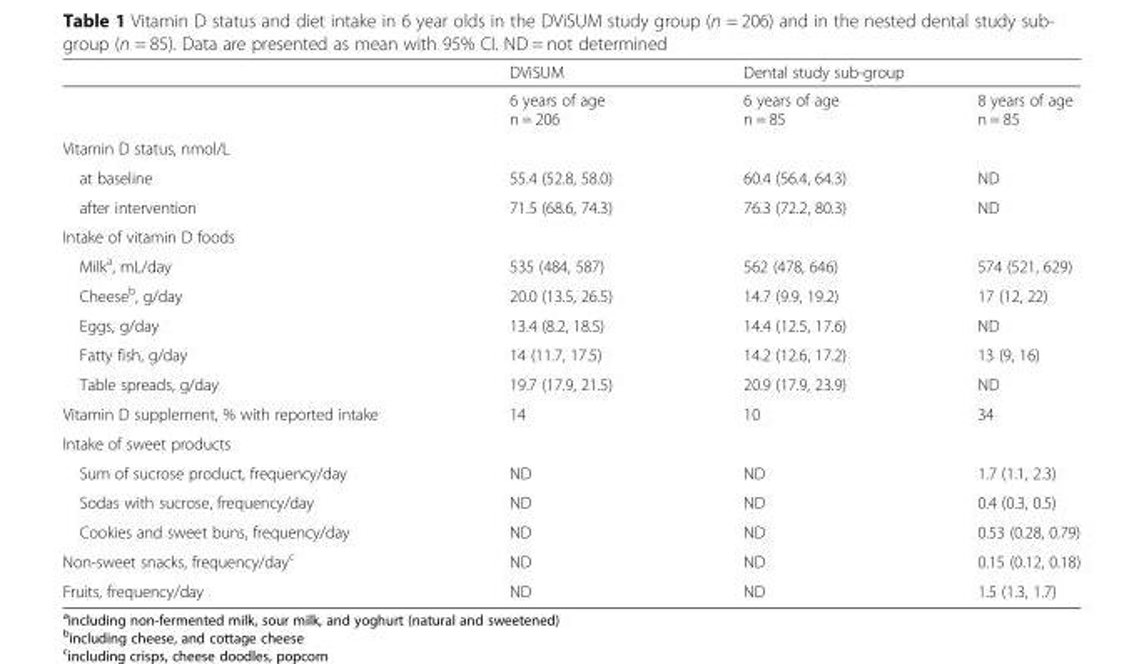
<table><thead><tr><td rowspan="2"></td><td rowspan="2">DViSUM 6 years of age n = 206</td><td colspan="2">Dental study sub-group</td></tr><tr><td>6 years of age n = 85</td><td>8 years of age n = 85</td></tr></thead><tbody><tr><td colspan="4">Vitamin D status, nmol/L</td></tr><tr><td>at baseline</td><td>55.4 (52.8, 58.0)</td><td>60.4 (56.4, 64.3)</td><td>ND</td></tr><tr><td>after intervention</td><td>71.5 (68.6, 74.3)</td><td>76.3 (72.2, 80.3)</td><td>ND</td></tr><tr><td colspan="4">Intake of vitamin D foods</td></tr><tr><td>Milk<sup>a</sup>, mL/day</td><td>535 (484, 587)</td><td>562 (478, 646)</td><td>574 (521, 629)</td></tr><tr><td>Cheese<sup>b</sup>, g/day</td><td>20.0 (13.5, 26.5)</td><td>14.7 (9.9, 19.2)</td><td>17 (12, 22)</td></tr><tr><td>Eggs, g/day</td><td>13.4 (8.2, 18.5)</td><td>14.4 (12.5, 17.6)</td><td>ND</td></tr><tr><td>Fatty fish, g/day</td><td>14 (11.7, 17.5)</td><td>14.2 (12.6, 17.2)</td><td>13 (9, 16)</td></tr><tr><td>Table spreads, g/day</td><td>19.7 (17.9, 21.5)</td><td>20.9 (17.9, 23.9)</td><td>ND</td></tr><tr><td>Vitamin D supplement, % with reported intake</td><td>14</td><td>10</td><td>34</td></tr><tr><td colspan="4">Intake of sweet products</td></tr><tr><td>Sum of sucrose product, frequency/day</td><td>ND</td><td>ND</td><td>1.7 (1.1, 2.3)</td></tr><tr><td>Sodas with sucrose, frequency/day</td><td>ND</td><td>ND</td><td>0.4 (0.3, 0.5)</td></tr><tr><td>Cookies and sweet buns, frequency/day</td><td>ND</td><td>ND</td><td>0.53 (0.28, 0.79)</td></tr><tr><td>Non-sweet snacks, frequency/day<sup>c</sup></td><td>ND</td><td>ND</td><td>0.15 (0.12, 0.18)</td></tr><tr><td>Fruits, frequency/day</td><td>ND</td><td>ND</td><td>1.5 (1.3, 1.7)</td></tr></tbody></table>